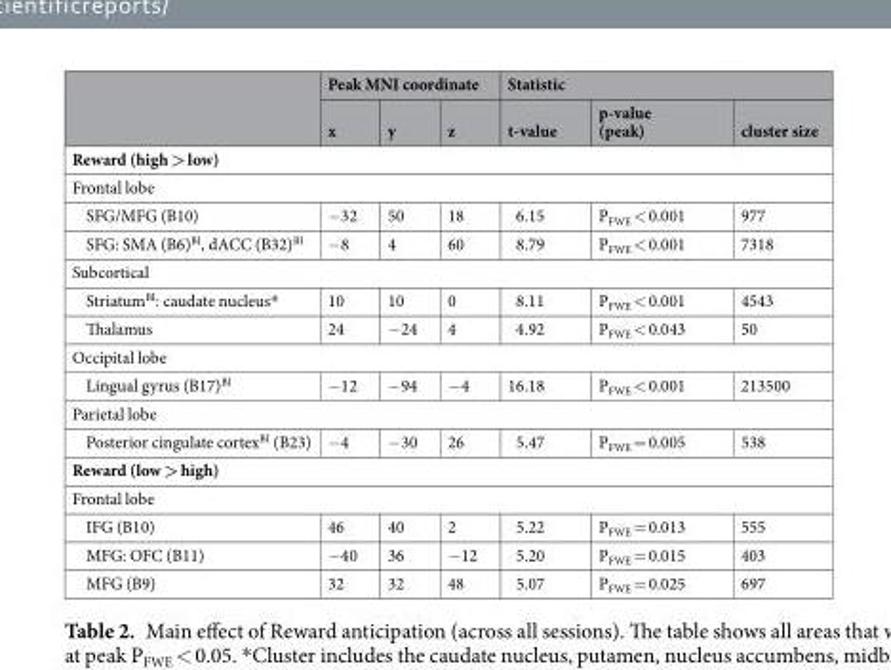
<table><thead><tr><td rowspan="2"></td><td colspan="3">Peak MNI coordinate</td><td colspan="3">Statistic</td></tr><tr><td>x</td><td>y</td><td>z</td><td>t-value</td><td>p-value (peak)</td><td>cluster size</td></tr></thead><tbody><tr><td colspan="7">Reward (high &gt; low)</td></tr><tr><td colspan="7">Frontal lobe</td></tr><tr><td>SFG/MFG (B10)</td><td>−32</td><td>50</td><td>18</td><td>6.15</td><td>P<sub>FWE</sub> &lt; 0.001</td><td>977</td></tr><tr><td>SFG: SMA (B6)<sup>BI</sup>, dACC (B32)<sup>BI</sup></td><td>−8</td><td>4</td><td>60</td><td>8.79</td><td>P<sub>FWE</sub> &lt; 0.001</td><td>7318</td></tr><tr><td colspan="7">Subcortical</td></tr><tr><td>Striatum<sup>BI</sup>: caudate nucleus*</td><td>10</td><td>10</td><td>0</td><td>8.11</td><td>P<sub>FWE</sub> &lt; 0.001</td><td>4543</td></tr><tr><td>Thalamus</td><td>24</td><td>−24</td><td>4</td><td>4.92</td><td>P<sub>FWE</sub> &lt; 0.043</td><td>50</td></tr><tr><td colspan="7">Occipital lobe</td></tr><tr><td>Lingual gyrus (B17)<sup>BI</sup></td><td>−12</td><td>−94</td><td>−4</td><td>16.18</td><td>P<sub>FWE</sub> &lt; 0.001</td><td>213500</td></tr><tr><td colspan="7">Parietal lobe</td></tr><tr><td>Posterior cingulate cortex<sup>BI</sup> (B23)</td><td>−4</td><td>−30</td><td>26</td><td>5.47</td><td>P<sub>FWE</sub> = 0.005</td><td>538</td></tr><tr><td colspan="7">Reward (low &gt; high)</td></tr><tr><td colspan="7">Frontal lobe</td></tr><tr><td>IFG (B10)</td><td>46</td><td>40</td><td>2</td><td>5.22</td><td>P<sub>FWE</sub> = 0.013</td><td>555</td></tr><tr><td>MFG: OFC (B11)</td><td>−40</td><td>36</td><td>−12</td><td>5.20</td><td>P<sub>FWE</sub> = 0.015</td><td>403</td></tr><tr><td>MFG (B9)</td><td>32</td><td>32</td><td>48</td><td>5.07</td><td>P<sub>FWE</sub> = 0.025</td><td>697</td></tr></tbody></table>